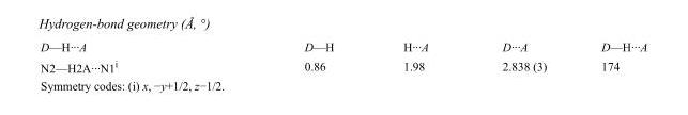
<table><tbody><tr><td>D—H···A</td><td>D—H</td><td>H···A</td><td>D···A</td><td>D—H···A</td></tr><tr><td>N2—H2A···N1<sup>i</sup></td><td>0.86</td><td>1.98</td><td>2.838 (3)</td><td>174</td></tr></tbody></table>